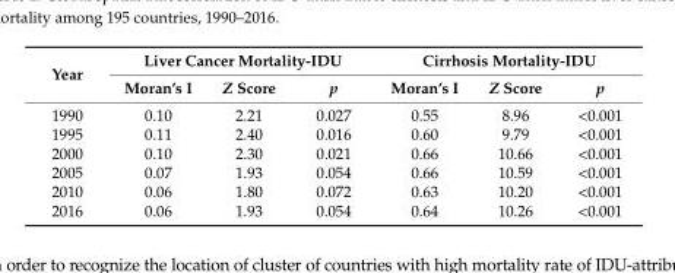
<table><thead><tr><td rowspan="2">Year</td><td colspan="3">Liver Cancer Mortality-IDU</td><td colspan="3">Cirrhosis Mortality-IDU</td></tr><tr><td>Moran’s I</td><td>Z Score</td><td>p</td><td>Moran’s I</td><td>Z Score</td><td>p</td></tr></thead><tbody><tr><td>1990</td><td>0.10</td><td>2.21</td><td>0.027</td><td>0.55</td><td>8.96</td><td>&lt;0.001</td></tr><tr><td>1995</td><td>0.11</td><td>2.40</td><td>0.016</td><td>0.60</td><td>9.79</td><td>&lt;0.001</td></tr><tr><td>2000</td><td>0.10</td><td>2.30</td><td>0.021</td><td>0.66</td><td>10.66</td><td>&lt;0.001</td></tr><tr><td>2005</td><td>0.07</td><td>1.93</td><td>0.054</td><td>0.66</td><td>10.59</td><td>&lt;0.001</td></tr><tr><td>2010</td><td>0.06</td><td>1.80</td><td>0.072</td><td>0.63</td><td>10.20</td><td>&lt;0.001</td></tr><tr><td>2016</td><td>0.06</td><td>1.93</td><td>0.054</td><td>0.64</td><td>10.26</td><td>&lt;0.001</td></tr></tbody></table>